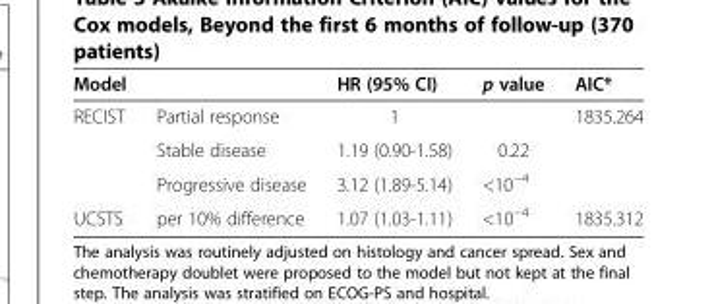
<table><thead><tr><td>Model</td><td></td><td>HR (95% CI)</td><td>p value</td><td>AIC*</td></tr></thead><tbody><tr><td rowspan="3">RECIST</td><td>Partial response</td><td>1</td><td></td><td>1835.264</td></tr><tr><td>Stable disease</td><td>1.19 (0.90-1.58)</td><td>0.22</td><td></td></tr><tr><td>Progressive disease</td><td>3.12 (1.89-5.14)</td><td>&lt;10<sup>−4</sup></td><td></td></tr><tr><td>UCSTS</td><td>per 10% difference</td><td>1.07 (1.03-1.11)</td><td>&lt;10<sup>−4</sup></td><td>1835.312</td></tr></tbody></table>